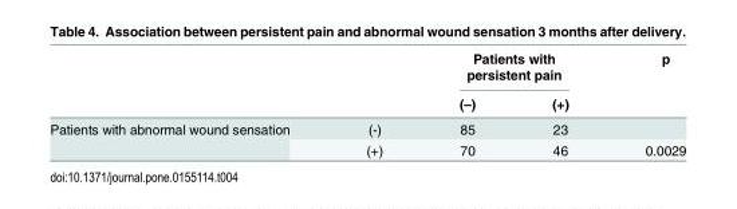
<table><thead><tr><td rowspan="2"></td><td rowspan="2"></td><td colspan="2">Patients with persistent pain</td><td rowspan="2">p</td></tr><tr><td>(–)</td><td>(+)</td></tr></thead><tbody><tr><td rowspan="2">Patients with abnormal wound sensation</td><td>(-)</td><td>85</td><td>23</td><td></td></tr><tr><td>(+)</td><td>70</td><td>46</td><td>0.0029</td></tr></tbody></table>